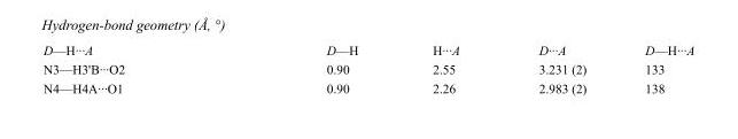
<table><tbody><tr><td>D—H···A</td><td>D—H</td><td>H···A</td><td>D···A</td><td>D—H···A</td></tr><tr><td>N3—H3&#x27;B···O2</td><td>0.90</td><td>2.55</td><td>3.231 (2)</td><td>133</td></tr><tr><td>N4—H4A···O1</td><td>0.90</td><td>2.26</td><td>2.983 (2)</td><td>138</td></tr></tbody></table>